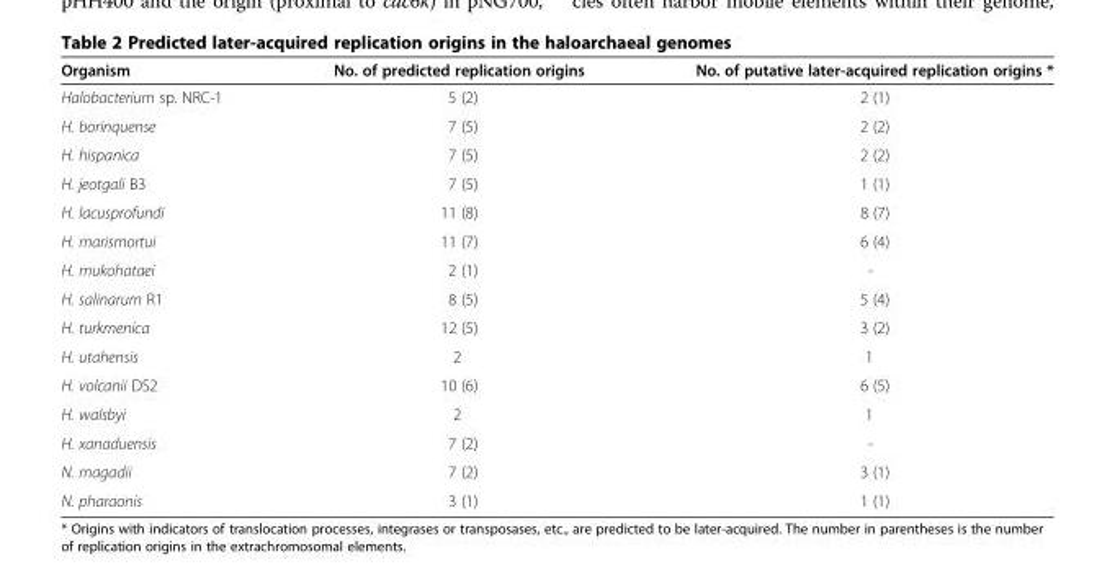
<table><thead><tr><td>Organism</td><td>No. of predicted replication origins</td><td>No. of putative later-acquired replication origins *</td></tr></thead><tbody><tr><td>Halobacterium sp. NRC-1</td><td>5 (2)</td><td>2 (1)</td></tr><tr><td>H. borinquense</td><td>7 (5)</td><td>2 (2)</td></tr><tr><td>H. hispanica</td><td>7 (5)</td><td>2 (2)</td></tr><tr><td>H. jeotgali B3</td><td>7 (5)</td><td>1 (1)</td></tr><tr><td>H. lacusprofundi</td><td>11 (8)</td><td>8 (7)</td></tr><tr><td>H. marismortui</td><td>11 (7)</td><td>6 (4)</td></tr><tr><td>H. mukohataei</td><td>2 (1)</td><td>-</td></tr><tr><td>H. salinarum R1</td><td>8 (5)</td><td>5 (4)</td></tr><tr><td>H. turkmenica</td><td>12 (5)</td><td>3 (2)</td></tr><tr><td>H. utahensis</td><td>2</td><td>1</td></tr><tr><td>H. volcanii DS2</td><td>10 (6)</td><td>6 (5)</td></tr><tr><td>H. walsbyi</td><td>2</td><td>1</td></tr><tr><td>H. xanaduensis</td><td>7 (2)</td><td>-</td></tr><tr><td>N. magadii</td><td>7 (2)</td><td>3 (1)</td></tr><tr><td>N. pharaonis</td><td>3 (1)</td><td>1 (1)</td></tr></tbody></table>